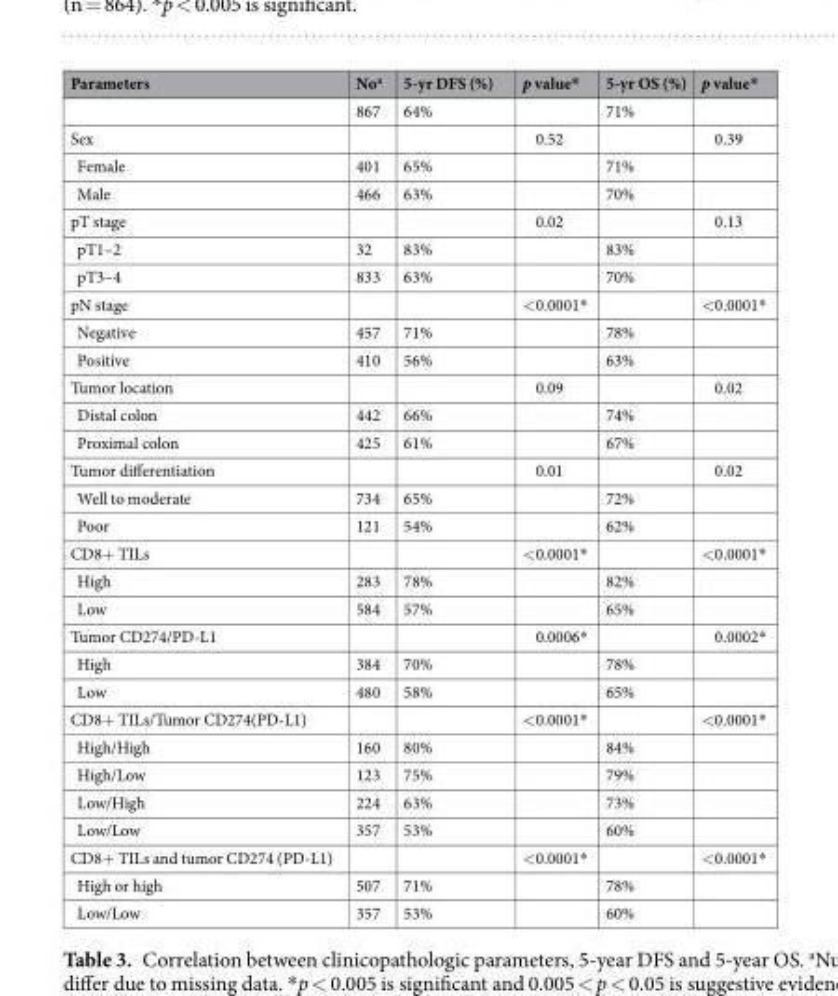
<table><thead><tr><td>Parameters</td><td>No<sup>a</sup></td><td>5-yr DFS (%)</td><td>p value*</td><td>5-yr OS (%)</td><td>p value*</td></tr></thead><tbody><tr><td></td><td>867</td><td>64%</td><td></td><td>71%</td><td></td></tr><tr><td>Sex</td><td></td><td></td><td>0.52</td><td></td><td>0.39</td></tr><tr><td>Female</td><td>401</td><td>65%</td><td></td><td>71%</td><td></td></tr><tr><td>Male</td><td>466</td><td>63%</td><td></td><td>70%</td><td></td></tr><tr><td>pT stage</td><td></td><td></td><td>0.02</td><td></td><td>0.13</td></tr><tr><td>pT1–2</td><td>32</td><td>83%</td><td></td><td>83%</td><td></td></tr><tr><td>pT3–4</td><td>833</td><td>63%</td><td></td><td>70%</td><td></td></tr><tr><td>pN stage</td><td></td><td></td><td>&lt;0.0001*</td><td></td><td>&lt;0.0001*</td></tr><tr><td>Negative</td><td>457</td><td>71%</td><td></td><td>78%</td><td></td></tr><tr><td>Positive</td><td>410</td><td>56%</td><td></td><td>63%</td><td></td></tr><tr><td>Tumor location</td><td></td><td></td><td>0.09</td><td></td><td>0.02</td></tr><tr><td>Distal colon</td><td>442</td><td>66%</td><td></td><td>74%</td><td></td></tr><tr><td>Proximal colon</td><td>425</td><td>61%</td><td></td><td>67%</td><td></td></tr><tr><td>Tumor differentiation</td><td></td><td></td><td>0.01</td><td></td><td>0.02</td></tr><tr><td>Well to moderate</td><td>734</td><td>65%</td><td></td><td>72%</td><td></td></tr><tr><td>Poor</td><td>121</td><td>54%</td><td></td><td>62%</td><td></td></tr><tr><td>CD8+ TILs</td><td></td><td></td><td>&lt;0.0001*</td><td></td><td>&lt;0.0001*</td></tr><tr><td>High</td><td>283</td><td>78%</td><td></td><td>82%</td><td></td></tr><tr><td>Low</td><td>584</td><td>57%</td><td></td><td>65%</td><td></td></tr><tr><td>Tumor CD274/PD-L1</td><td></td><td></td><td>0.0006*</td><td></td><td>0.0002*</td></tr><tr><td>High</td><td>384</td><td>70%</td><td></td><td>78%</td><td></td></tr><tr><td>Low</td><td>480</td><td>58%</td><td></td><td>65%</td><td></td></tr><tr><td>CD8+ TILs/Tumor CD274(PD-L1)</td><td></td><td></td><td>&lt;0.0001*</td><td></td><td>&lt;0.0001*</td></tr><tr><td>High/High</td><td>160</td><td>80%</td><td></td><td>84%</td><td></td></tr><tr><td>High/Low</td><td>123</td><td>75%</td><td></td><td>79%</td><td></td></tr><tr><td>Low/High</td><td>224</td><td>63%</td><td></td><td>73%</td><td></td></tr><tr><td>Low/Low</td><td>357</td><td>53%</td><td></td><td>60%</td><td></td></tr><tr><td>CD8+ TILs and tumor CD274 (PD-L1)</td><td></td><td></td><td>&lt;0.0001*</td><td></td><td>&lt;0.0001*</td></tr><tr><td>High or high</td><td>507</td><td>71%</td><td></td><td>78%</td><td></td></tr><tr><td>Low/Low</td><td>357</td><td>53%</td><td></td><td>60%</td><td></td></tr></tbody></table>